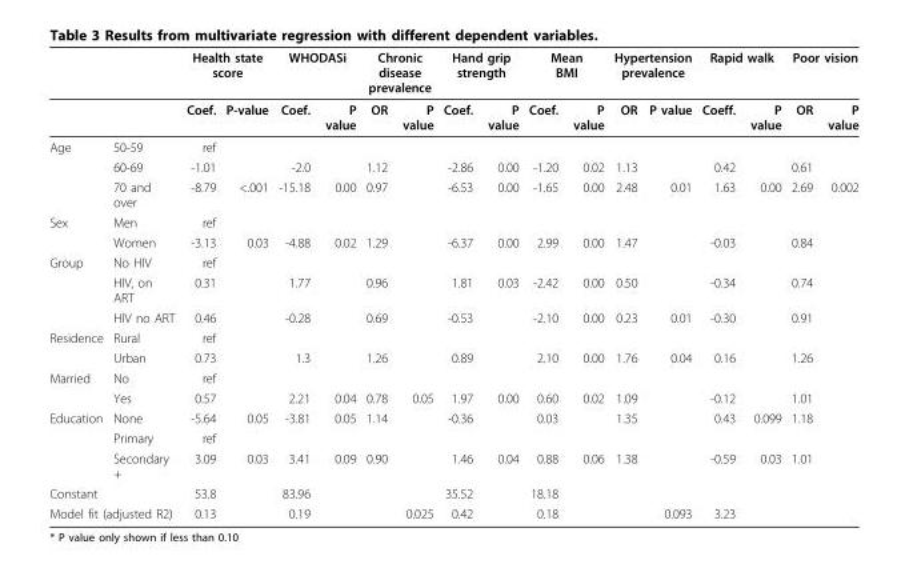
<table><thead><tr><td rowspan="2"></td><td rowspan="2"></td><td colspan="2">Health state score</td><td colspan="2">WHODASi</td><td colspan="2">Chronic disease prevalence</td><td colspan="2">Hand grip strength</td><td colspan="2">Mean BMI</td><td colspan="2">Hypertension prevalence</td><td colspan="2">Rapid walk</td><td colspan="2">Poor vision</td></tr><tr><td>Coef.</td><td>P-value</td><td>Coef.</td><td>P value</td><td>OR</td><td>P value</td><td>Coef.</td><td>P value</td><td>Coef.</td><td>P value</td><td>OR</td><td>P value</td><td>Coeff.</td><td>P value</td><td>OR</td><td>P value</td></tr></thead><tbody><tr><td rowspan="3">Age</td><td>50-59</td><td>ref</td><td></td><td></td><td></td><td></td><td></td><td></td><td></td><td></td><td></td><td></td><td></td><td></td><td></td><td></td><td></td></tr><tr><td>60-69</td><td>-1.01</td><td></td><td>-2.0</td><td></td><td>1.12</td><td></td><td>-2.86</td><td>0.00</td><td>-1.20</td><td>0.02</td><td>1.13</td><td></td><td>0.42</td><td></td><td>0.61</td><td></td></tr><tr><td>70 and over</td><td>-8.79</td><td>&lt;.001</td><td>-15.18</td><td>0.00</td><td>0.97</td><td></td><td>-6.53</td><td>0.00</td><td>-1.65</td><td>0.00</td><td>2.48</td><td>0.01</td><td>1.63</td><td>0.00</td><td>2.69</td><td>0.002</td></tr><tr><td rowspan="2">Sex</td><td>Men</td><td>ref</td><td></td><td></td><td></td><td></td><td></td><td></td><td></td><td></td><td></td><td></td><td></td><td></td><td></td><td></td><td></td></tr><tr><td>Women</td><td>-3.13</td><td>0.03</td><td>-4.88</td><td>0.02</td><td>1.29</td><td></td><td>-6.37</td><td>0.00</td><td>2.99</td><td>0.00</td><td>1.47</td><td></td><td>-0.03</td><td></td><td>0.84</td><td></td></tr><tr><td rowspan="3">Group</td><td>No HIV</td><td>ref</td><td></td><td></td><td></td><td></td><td></td><td></td><td></td><td></td><td></td><td></td><td></td><td></td><td></td><td></td><td></td></tr><tr><td>HIV, on ART</td><td>0.31</td><td></td><td>1.77</td><td></td><td>0.96</td><td></td><td>1.81</td><td>0.03</td><td>-2.42</td><td>0.00</td><td>0.50</td><td></td><td>-0.34</td><td></td><td>0.74</td><td></td></tr><tr><td>HIV no ART</td><td>0.46</td><td></td><td>-0.28</td><td></td><td>0.69</td><td></td><td>-0.53</td><td></td><td>-2.10</td><td>0.00</td><td>0.23</td><td>0.01</td><td>-0.30</td><td></td><td>0.91</td><td></td></tr><tr><td rowspan="2">Residence</td><td>Rural</td><td>ref</td><td></td><td></td><td></td><td></td><td></td><td></td><td></td><td></td><td></td><td></td><td></td><td></td><td></td><td></td><td></td></tr><tr><td>Urban</td><td>0.73</td><td></td><td>1.3</td><td></td><td>1.26</td><td></td><td>0.89</td><td></td><td>2.10</td><td>0.00</td><td>1.76</td><td>0.04</td><td>0.16</td><td></td><td>1.26</td><td></td></tr><tr><td rowspan="2">Married</td><td>No</td><td>ref</td><td></td><td></td><td></td><td></td><td></td><td></td><td></td><td></td><td></td><td></td><td></td><td></td><td></td><td></td><td></td></tr><tr><td>Yes</td><td>0.57</td><td></td><td>2.21</td><td>0.04</td><td>0.78</td><td>0.05</td><td>1.97</td><td>0.00</td><td>0.60</td><td>0.02</td><td>1.09</td><td></td><td>-0.12</td><td></td><td>1.01</td><td></td></tr><tr><td rowspan="3">Education</td><td>None</td><td>-5.64</td><td>0.05</td><td>-3.81</td><td>0.05</td><td>1.14</td><td></td><td>-0.36</td><td></td><td>0.03</td><td></td><td>1.35</td><td></td><td>0.43</td><td>0.099</td><td>1.18</td><td></td></tr><tr><td>Primary</td><td>ref</td><td></td><td></td><td></td><td></td><td></td><td></td><td></td><td></td><td></td><td></td><td></td><td></td><td></td><td></td><td></td></tr><tr><td>Secondary +</td><td>3.09</td><td>0.03</td><td>3.41</td><td>0.09</td><td>0.90</td><td></td><td>1.46</td><td>0.04</td><td>0.88</td><td>0.06</td><td>1.38</td><td></td><td>-0.59</td><td>0.03</td><td>1.01</td><td></td></tr><tr><td>Constant</td><td></td><td>53.8</td><td></td><td>83.96</td><td></td><td></td><td></td><td>35.52</td><td></td><td>18.18</td><td></td><td></td><td></td><td></td><td></td><td></td><td></td></tr><tr><td colspan="2">Model fit (adjusted R2)</td><td>0.13</td><td></td><td>0.19</td><td></td><td></td><td>0.025</td><td>0.42</td><td></td><td>0.18</td><td></td><td></td><td>0.093</td><td>3.23</td><td></td><td></td><td></td></tr></tbody></table>